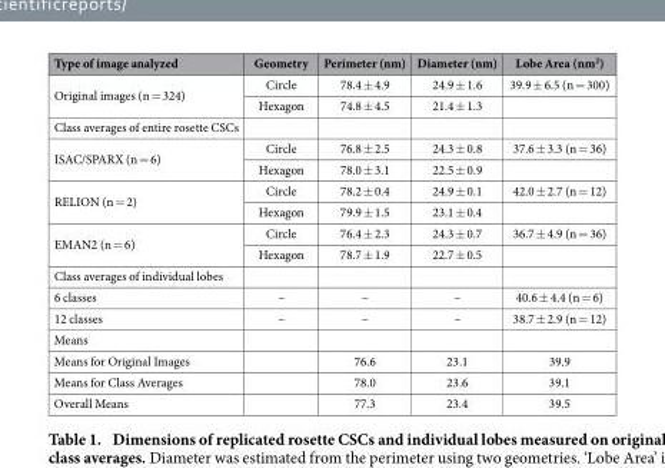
<table><thead><tr><td>Type of image analyzed</td><td>Geometry</td><td>Perimeter (nm)</td><td>Diameter (nm)</td><td>Lobe Area (nm<sup>2</sup>)</td></tr></thead><tbody><tr><td rowspan="2">Original images (n = 324)</td><td>Circle</td><td>78.4 ± 4.9</td><td>24.9 ± 1.6</td><td>39.9 ± 6.5 (n = 300)</td></tr><tr><td>Hexagon</td><td>74.8 ± 4.5</td><td>21.4 ± 1.3</td><td></td></tr><tr><td colspan="5">Class averages of entire rosette CSCs</td></tr><tr><td rowspan="2">ISAC/SPARX (n = 6)</td><td>Circle</td><td>76.8 ± 2.5</td><td>24.3 ± 0.8</td><td>37.6 ± 3.3 (n = 36)</td></tr><tr><td>Hexagon</td><td>78.0 ± 3.1</td><td>22.5 ± 0.9</td><td></td></tr><tr><td rowspan="2">RELION (n = 2)</td><td>Circle</td><td>78.2 ± 0.4</td><td>24.9 ± 0.1</td><td>42.0 ± 2.7 (n = 12)</td></tr><tr><td>Hexagon</td><td>79.9 ± 1.5</td><td>23.1 ± 0.4</td><td></td></tr><tr><td rowspan="2">EMAN2 (n = 6)</td><td>Circle</td><td>76.4 ± 2.3</td><td>24.3 ± 0.7</td><td>36.7 ± 4.9 (n = 36)</td></tr><tr><td>Hexagon</td><td>78.7 ± 1.9</td><td>22.7 ± 0.5</td><td></td></tr><tr><td colspan="5">Class averages of individual lobes</td></tr><tr><td>6 classes</td><td>–</td><td>–</td><td>–</td><td>40.6 ± 4.4 (n = 6)</td></tr><tr><td>12 classes</td><td>–</td><td>–</td><td>–</td><td>38.7 ± 2.9 (n = 12)</td></tr><tr><td colspan="5">Means</td></tr><tr><td>Means for Original Images</td><td></td><td>76.6</td><td>23.1</td><td>39.9</td></tr><tr><td>Means for Class Averages</td><td></td><td>78.0</td><td>23.6</td><td>39.1</td></tr><tr><td>Overall Means</td><td></td><td>77.3</td><td>23.4</td><td>39.5</td></tr></tbody></table>